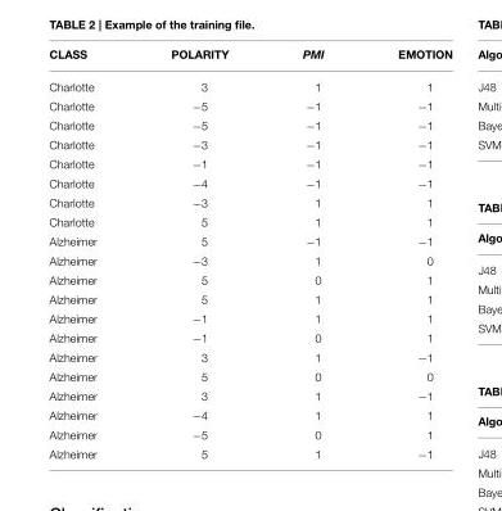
<table><thead><tr><td>CLASS</td><td>POLARITY</td><td>PMI</td><td>EMOTION</td></tr></thead><tbody><tr><td>Charlotte</td><td>3</td><td>1</td><td>1</td></tr><tr><td>Charlotte</td><td>−5</td><td>−1</td><td>−1</td></tr><tr><td>Charlotte</td><td>−5</td><td>−1</td><td>−1</td></tr><tr><td>Charlotte</td><td>−3</td><td>−1</td><td>−1</td></tr><tr><td>Charlotte</td><td>−1</td><td>−1</td><td>−1</td></tr><tr><td>Charlotte</td><td>−4</td><td>−1</td><td>−1</td></tr><tr><td>Charlotte</td><td>−3</td><td>1</td><td>1</td></tr><tr><td>Charlotte</td><td>5</td><td>1</td><td>1</td></tr><tr><td>Alzheimer</td><td>5</td><td>−1</td><td>−1</td></tr><tr><td>Alzheimer</td><td>−3</td><td>1</td><td>0</td></tr><tr><td>Alzheimer</td><td>5</td><td>0</td><td>1</td></tr><tr><td>Alzheimer</td><td>5</td><td>1</td><td>1</td></tr><tr><td>Alzheimer</td><td>−1</td><td>1</td><td>1</td></tr><tr><td>Alzheimer</td><td>−1</td><td>0</td><td>1</td></tr><tr><td>Alzheimer</td><td>3</td><td>1</td><td>−1</td></tr><tr><td>Alzheimer</td><td>5</td><td>0</td><td>0</td></tr><tr><td>Alzheimer</td><td>3</td><td>1</td><td>−1</td></tr><tr><td>Alzheimer</td><td>−4</td><td>1</td><td>1</td></tr><tr><td>Alzheimer</td><td>−5</td><td>0</td><td>1</td></tr><tr><td>Alzheimer</td><td>5</td><td>1</td><td>−1</td></tr></tbody></table>